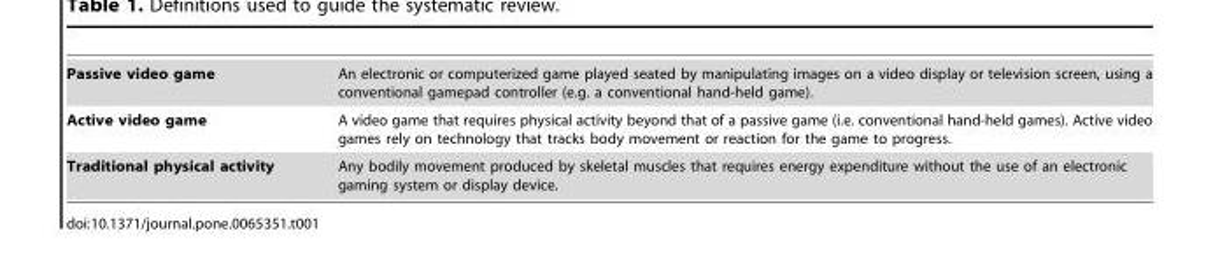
<table><tbody><tr><td>Passive video game</td><td>An electronic or computerized game played seated by manipulating images on a video display or television screen, using a conventional gamepad controller (e.g. a conventional hand-held game).</td></tr><tr><td>Active video game</td><td>A video game that requires physical activity beyond that of a passive game (i.e. conventional hand-held games). Active video games rely on technology that tracks body movement or reaction for the game to progress.</td></tr><tr><td>Traditional physical activity</td><td>Any bodily movement produced by skeletal muscles that requires energy expenditure without the use of an electronic gaming system or display device.</td></tr></tbody></table>